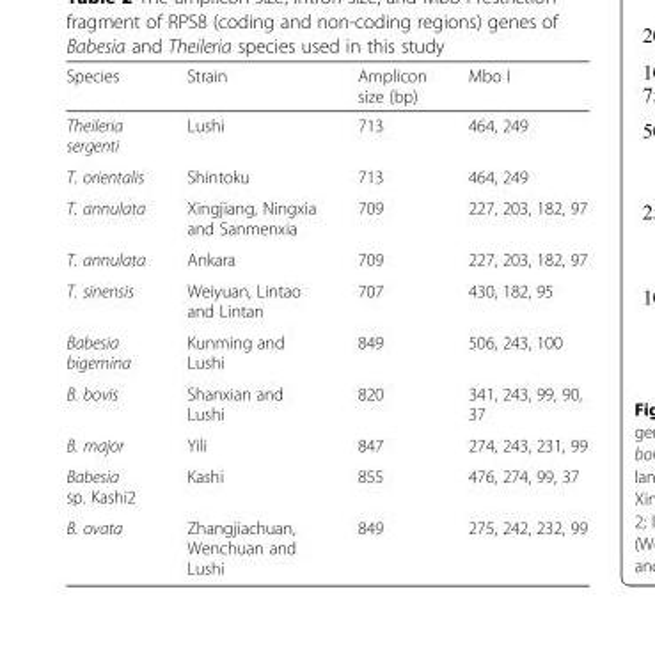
<table><thead><tr><td>Species</td><td>Strain</td><td>Amplicon size (bp)</td><td>Mbo I</td></tr></thead><tbody><tr><td>Theileria sergenti</td><td>Lushi</td><td>713</td><td>464, 249</td></tr><tr><td>T. orientalis</td><td>Shintoku</td><td>713</td><td>464, 249</td></tr><tr><td>T. annulata</td><td>Xingjiang, Ningxia and Sanmenxia</td><td>709</td><td>227, 203, 182, 97</td></tr><tr><td>T. annulata</td><td>Ankara</td><td>709</td><td>227, 203, 182, 97</td></tr><tr><td>T. sinensis</td><td>Weiyuan, Lintao and Lintan</td><td>707</td><td>430, 182, 95</td></tr><tr><td>Babesia bigemina</td><td>Kunming and Lushi</td><td>849</td><td>506, 243, 100</td></tr><tr><td>B. bovis</td><td>Shanxian and Lushi</td><td>820</td><td>341, 243, 99, 90, 37</td></tr><tr><td>B. major</td><td>Yili</td><td>847</td><td>274, 243, 231, 99</td></tr><tr><td>Babesia sp. Kashi2</td><td>Kashi</td><td>855</td><td>476, 274, 99, 37</td></tr><tr><td>B. ovata</td><td>Zhangjiachuan, Wenchuan and Lushi</td><td>849</td><td>275, 242, 232, 99</td></tr></tbody></table>